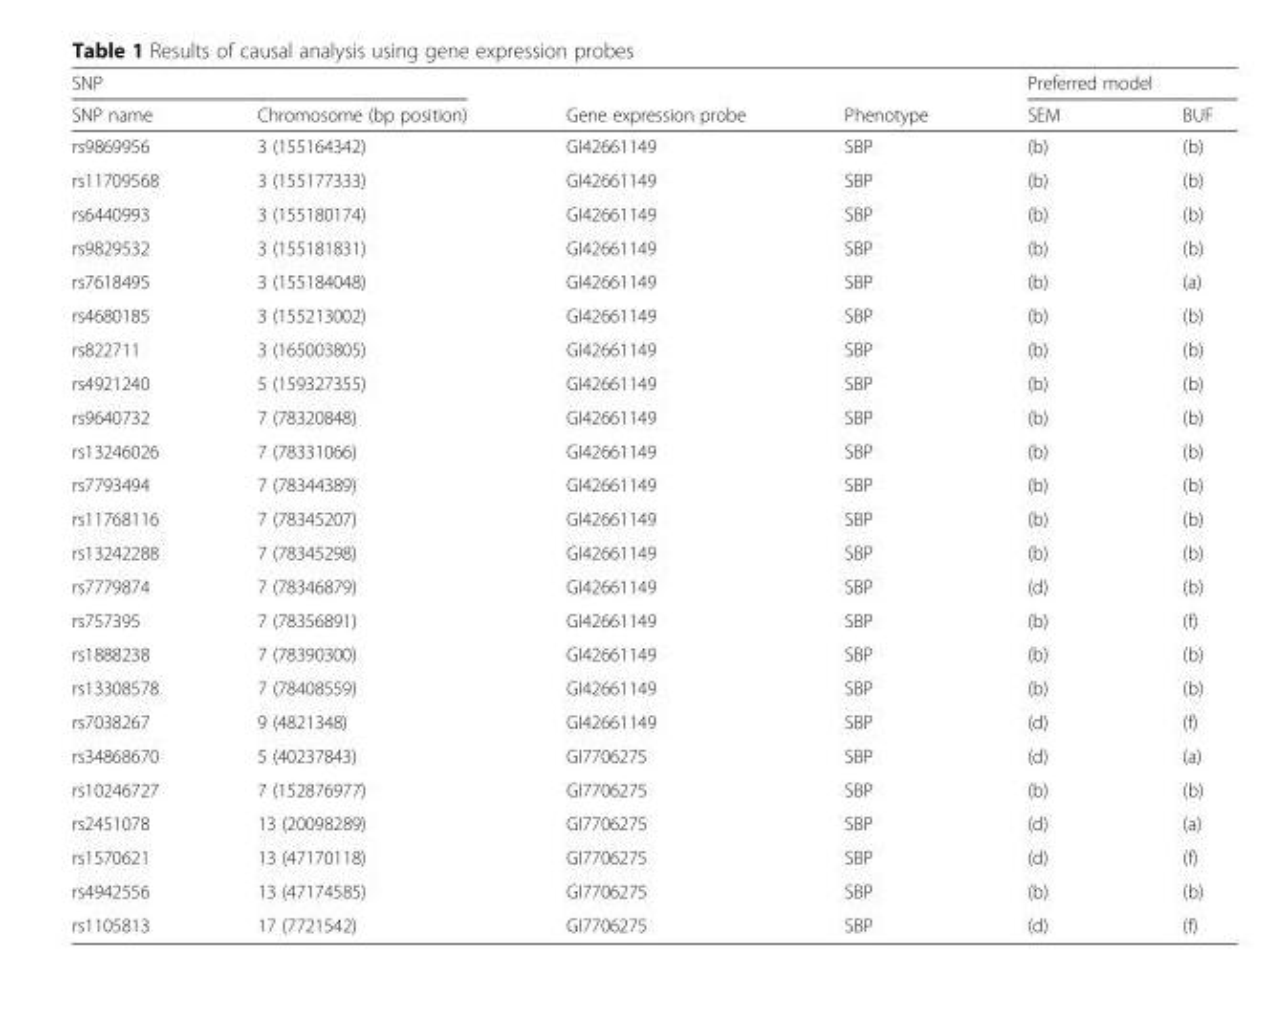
<table><thead><tr><td colspan="2">SNP</td><td rowspan="2">Gene expression probe</td><td rowspan="2">Phenotype</td><td colspan="2">Preferred model</td></tr><tr><td>SNP name</td><td>Chromosome (bp position)</td><td>SEM</td><td>BUF</td></tr></thead><tbody><tr><td>rs9869956</td><td>3 (155164342)</td><td>GI42661149</td><td>SBP</td><td>(b)</td><td>(b)</td></tr><tr><td>rs11709568</td><td>3 (155177333)</td><td>GI42661149</td><td>SBP</td><td>(b)</td><td>(b)</td></tr><tr><td>rs6440993</td><td>3 (155180174)</td><td>GI42661149</td><td>SBP</td><td>(b)</td><td>(b)</td></tr><tr><td>rs9829532</td><td>3 (155181831)</td><td>GI42661149</td><td>SBP</td><td>(b)</td><td>(b)</td></tr><tr><td>rs7618495</td><td>3 (155184048)</td><td>GI42661149</td><td>SBP</td><td>(b)</td><td>(a)</td></tr><tr><td>rs4680185</td><td>3 (155213002)</td><td>GI42661149</td><td>SBP</td><td>(b)</td><td>(b)</td></tr><tr><td>rs822711</td><td>3 (165003805)</td><td>GI42661149</td><td>SBP</td><td>(b)</td><td>(b)</td></tr><tr><td>rs4921240</td><td>5 (159327355)</td><td>GI42661149</td><td>SBP</td><td>(b)</td><td>(b)</td></tr><tr><td>rs9640732</td><td>7 (78320848)</td><td>GI42661149</td><td>SBP</td><td>(b)</td><td>(b)</td></tr><tr><td>rs13246026</td><td>7 (78331066)</td><td>GI42661149</td><td>SBP</td><td>(b)</td><td>(b)</td></tr><tr><td>rs7793494</td><td>7 (78344389)</td><td>GI42661149</td><td>SBP</td><td>(b)</td><td>(b)</td></tr><tr><td>rs11768116</td><td>7 (78345207)</td><td>GI42661149</td><td>SBP</td><td>(b)</td><td>(b)</td></tr><tr><td>rs13242288</td><td>7 (78345298)</td><td>GI42661149</td><td>SBP</td><td>(b)</td><td>(b)</td></tr><tr><td>rs7779874</td><td>7 (78346879)</td><td>GI42661149</td><td>SBP</td><td>(d)</td><td>(b)</td></tr><tr><td>rs757395</td><td>7 (78356891)</td><td>GI42661149</td><td>SBP</td><td>(b)</td><td>(f)</td></tr><tr><td>rs1888238</td><td>7 (78390300)</td><td>GI42661149</td><td>SBP</td><td>(b)</td><td>(b)</td></tr><tr><td>rs13308578</td><td>7 (78408559)</td><td>GI42661149</td><td>SBP</td><td>(b)</td><td>(b)</td></tr><tr><td>rs7038267</td><td>9 (4821348)</td><td>GI42661149</td><td>SBP</td><td>(d)</td><td>(f)</td></tr><tr><td>rs34868670</td><td>5 (40237843)</td><td>GI7706275</td><td>SBP</td><td>(d)</td><td>(a)</td></tr><tr><td>rs10246727</td><td>7 (152876977)</td><td>GI7706275</td><td>SBP</td><td>(b)</td><td>(b)</td></tr><tr><td>rs2451078</td><td>13 (20098289)</td><td>GI7706275</td><td>SBP</td><td>(d)</td><td>(a)</td></tr><tr><td>rs1570621</td><td>13 (47170118)</td><td>GI7706275</td><td>SBP</td><td>(d)</td><td>(f)</td></tr><tr><td>rs4942556</td><td>13 (47174585)</td><td>GI7706275</td><td>SBP</td><td>(b)</td><td>(b)</td></tr><tr><td>rs1105813</td><td>17 (7721542)</td><td>GI7706275</td><td>SBP</td><td>(d)</td><td>(f)</td></tr></tbody></table>